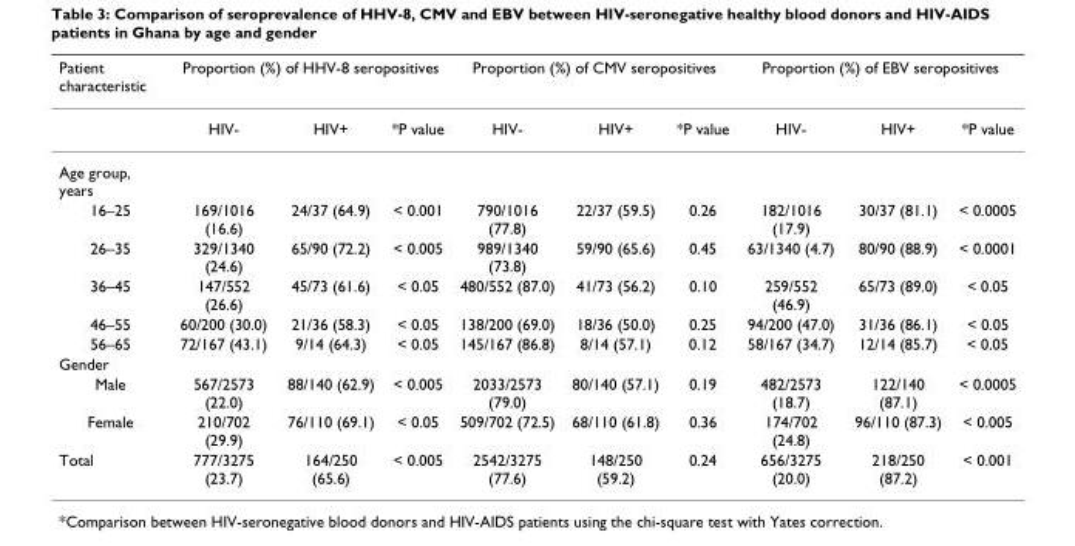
<table><thead><tr><td rowspan="2">Patient characteristic</td><td colspan="3">Proportion (%) of HHV-8 seropositives</td><td colspan="3">Proportion (%) of CMV seropositives</td><td colspan="3">Proportion (%) of EBV seropositives</td></tr><tr><td>HIV-</td><td>HIV+</td><td>*P value</td><td>HIV-</td><td>HIV+</td><td>*P value</td><td>HIV-</td><td>HIV+</td><td>*P value</td></tr></thead><tbody><tr><td colspan="10">Age group, years</td></tr><tr><td>16–25</td><td>169/1016 (16.6)</td><td>24/37 (64.9)</td><td>&lt; 0.001</td><td>790/1016 (77.8)</td><td>22/37 (59.5)</td><td>0.26</td><td>182/1016 (17.9)</td><td>30/37 (81.1)</td><td>&lt; 0.0005</td></tr><tr><td>26–35</td><td>329/1340 (24.6)</td><td>65/90 (72.2)</td><td>&lt; 0.005</td><td>989/1340 (73.8)</td><td>59/90 (65.6)</td><td>0.45</td><td>63/1340 (4.7)</td><td>80/90 (88.9)</td><td>&lt; 0.0001</td></tr><tr><td>36–45</td><td>147/552 (26.6)</td><td>45/73 (61.6)</td><td>&lt; 0.05</td><td>480/552 (87.0)</td><td>41/73 (56.2)</td><td>0.10</td><td>259/552 (46.9)</td><td>65/73 (89.0)</td><td>&lt; 0.05</td></tr><tr><td>46–55</td><td>60/200 (30.0)</td><td>21/36 (58.3)</td><td>&lt; 0.05</td><td>138/200 (69.0)</td><td>18/36 (50.0)</td><td>0.25</td><td>94/200 (47.0)</td><td>31/36 (86.1)</td><td>&lt; 0.05</td></tr><tr><td>56–65</td><td>72/167 (43.1)</td><td>9/14 (64.3)</td><td>&lt; 0.05</td><td>145/167 (86.8)</td><td>8/14 (57.1)</td><td>0.12</td><td>58/167 (34.7)</td><td>12/14 (85.7)</td><td>&lt; 0.05</td></tr><tr><td colspan="10">Gender</td></tr><tr><td>Male</td><td>567/2573 (22.0)</td><td>88/140 (62.9)</td><td>&lt; 0.005</td><td>2033/2573 (79.0)</td><td>80/140 (57.1)</td><td>0.19</td><td>482/2573 (18.7)</td><td>122/140 (87.1)</td><td>&lt; 0.0005</td></tr><tr><td>Female</td><td>210/702 (29.9)</td><td>76/110 (69.1)</td><td>&lt; 0.05</td><td>509/702 (72.5)</td><td>68/110 (61.8)</td><td>0.36</td><td>174/702 (24.8)</td><td>96/110 (87.3)</td><td>&lt; 0.005</td></tr><tr><td>Total</td><td>777/3275 (23.7)</td><td>164/250 (65.6)</td><td>&lt; 0.005</td><td>2542/3275 (77.6)</td><td>148/250 (59.2)</td><td>0.24</td><td>656/3275 (20.0)</td><td>218/250 (87.2)</td><td>&lt; 0.001</td></tr></tbody></table>